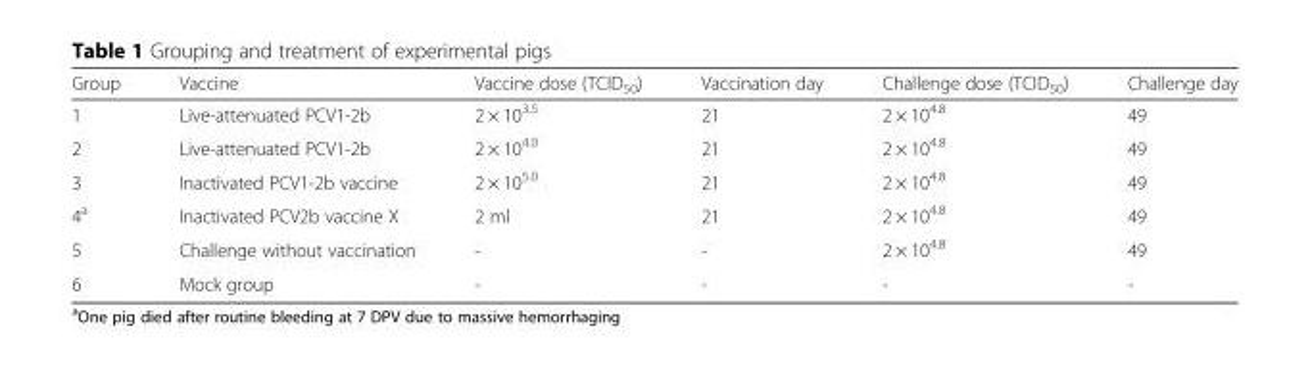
<table><thead><tr><td>Group</td><td>Vaccine</td><td>Vaccine dose (TCID<sub>50</sub>)</td><td>Vaccination day</td><td>Challenge dose (TCID<sub>50</sub>)</td><td>Challenge day</td></tr></thead><tbody><tr><td>1</td><td>Live-attenuated PCV1-2b</td><td>2 × 10<sup>3.5</sup></td><td>21</td><td>2 × 10<sup>4.8</sup></td><td>49</td></tr><tr><td>2</td><td>Live-attenuated PCV1-2b</td><td>2 × 10<sup>4.0</sup></td><td>21</td><td>2 × 10<sup>4.8</sup></td><td>49</td></tr><tr><td>3</td><td>Inactivated PCV1-2b vaccine</td><td>2 × 10<sup>5.0</sup></td><td>21</td><td>2 × 10<sup>4.8</sup></td><td>49</td></tr><tr><td>4<sup>a</sup></td><td>Inactivated PCV2b vaccine X</td><td>2 ml</td><td>21</td><td>2 × 10<sup>4.8</sup></td><td>49</td></tr><tr><td>5</td><td>Challenge without vaccination</td><td>-</td><td>-</td><td>2 × 10<sup>4.8</sup></td><td>49</td></tr><tr><td>6</td><td>Mock group</td><td>-</td><td>-</td><td>-</td><td>-</td></tr></tbody></table>